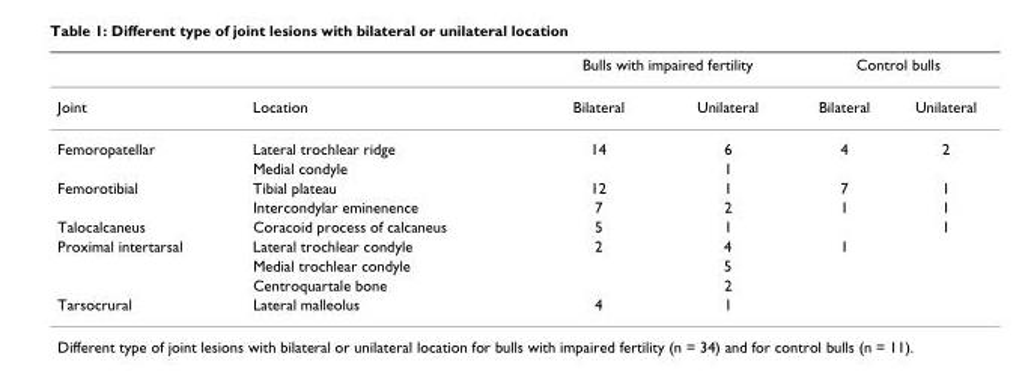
<table><thead><tr><td rowspan="2">Joint</td><td rowspan="2">Location</td><td colspan="2">Bulls with impaired fertility</td><td colspan="2">Control bulls</td></tr><tr><td>Bilateral</td><td>Unilateral</td><td>Bilateral</td><td>Unilateral</td></tr></thead><tbody><tr><td rowspan="2">Femoropatellar</td><td>Lateral trochlear ridge</td><td>14</td><td>6</td><td>4</td><td>2</td></tr><tr><td>Medial condyle</td><td></td><td>1</td><td></td><td></td></tr><tr><td rowspan="2">Femorotibial</td><td>Tibial plateau</td><td>12</td><td>1</td><td>7</td><td>1</td></tr><tr><td>Intercondylar eminenence</td><td>7</td><td>2</td><td>1</td><td>1</td></tr><tr><td>Talocalcaneus</td><td>Coracoid process of calcaneus</td><td>5</td><td>1</td><td></td><td>1</td></tr><tr><td rowspan="3">Proximal intertarsal</td><td>Lateral trochlear condyle</td><td>2</td><td>4</td><td>1</td><td></td></tr><tr><td>Medial trochlear condyle</td><td></td><td>5</td><td></td><td></td></tr><tr><td>Centroquartale bone</td><td></td><td>2</td><td></td><td></td></tr><tr><td>Tarsocrural</td><td>Lateral malleolus</td><td>4</td><td>1</td><td></td><td></td></tr></tbody></table>